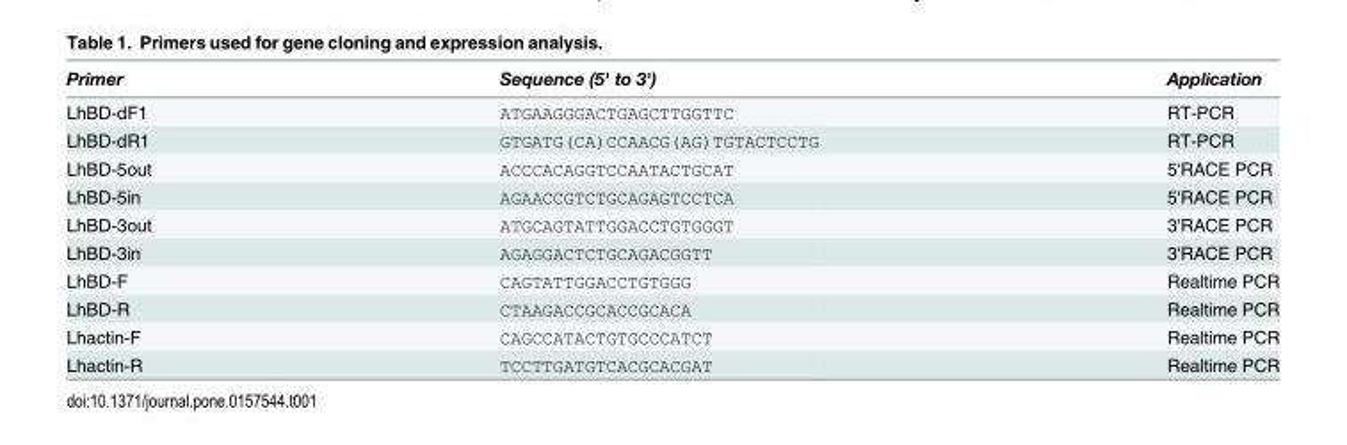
<table><thead><tr><td>Primer</td><td>Sequence (5&#x27; to 3&#x27;)</td><td>Application</td></tr></thead><tbody><tr><td>LhBD-dF1</td><td>ATGAAGGGACTGAGCTTGGTTC</td><td>RT-PCR</td></tr><tr><td>LhBD-dR1</td><td>GTGATG(CA)CCAACG(AG)TGTACTCCTG</td><td>RT-PCR</td></tr><tr><td>LhBD-5out</td><td>ACCCACAGGTCCAATACTGCAT</td><td>5&#x27;RACE PCR</td></tr><tr><td>LhBD-5in</td><td>AGAACCGTCTGCAGAGTCCTCA</td><td>5&#x27;RACE PCR</td></tr><tr><td>LhBD-3out</td><td>ATGCAGTATTGGACCTGTGGGT</td><td>3&#x27;RACE PCR</td></tr><tr><td>LhBD-3in</td><td>AGAGGACTCTGCAGACGGTT</td><td>3&#x27;RACE PCR</td></tr><tr><td>LhBD-F</td><td>CAGTATTGGACCTGTGGG</td><td>Realtime PCR</td></tr><tr><td>LhBD-R</td><td>CTAAGACCGCACCGCACA</td><td>Realtime PCR</td></tr><tr><td>Lhactin-F</td><td>CAGCCATACTGTGCCCATCT</td><td>Realtime PCR</td></tr><tr><td>Lhactin-R</td><td>TCCTTGATGTCACGCACGAT</td><td>Realtime PCR</td></tr></tbody></table>